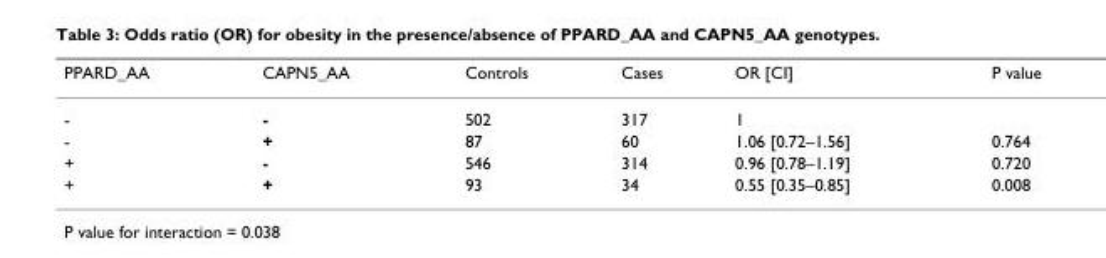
<table><thead><tr><td>PPARD_AA</td><td>CAPN5_AA</td><td>Controls</td><td>Cases</td><td>OR [CI]</td><td>P value</td></tr></thead><tbody><tr><td>-</td><td>-</td><td>502</td><td>317</td><td>1</td><td></td></tr><tr><td>-</td><td>+</td><td>87</td><td>60</td><td>1.06 [0.72–1.56]</td><td>0.764</td></tr><tr><td>+</td><td>-</td><td>546</td><td>314</td><td>0.96 [0.78–1.19]</td><td>0.720</td></tr><tr><td>+</td><td>+</td><td>93</td><td>34</td><td>0.55 [0.35–0.85]</td><td>0.008</td></tr></tbody></table>